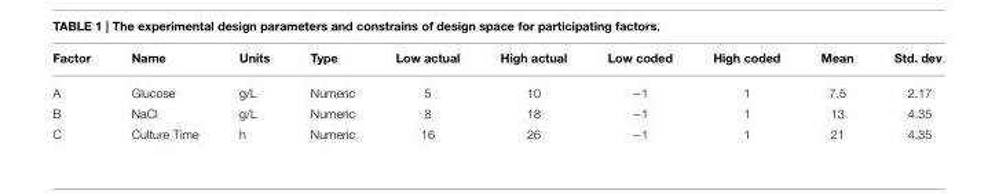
<table><thead><tr><td>Factor</td><td>Name</td><td>Units</td><td>Type</td><td>Low actual</td><td>High actual</td><td>Low coded</td><td>High coded</td><td>Mean</td><td>Std. dev.</td></tr></thead><tbody><tr><td>A</td><td>Glucose</td><td>g/L</td><td>Numeric</td><td>5</td><td>10</td><td>−1</td><td>1</td><td>7.5</td><td>2.17</td></tr><tr><td>B</td><td>NaCl</td><td>g/L</td><td>Numeric</td><td>8</td><td>18</td><td>−1</td><td>1</td><td>13</td><td>4.35</td></tr><tr><td>C</td><td>Culture Time</td><td>h</td><td>Numeric</td><td>16</td><td>26</td><td>−1</td><td>1</td><td>21</td><td>4.35</td></tr></tbody></table>